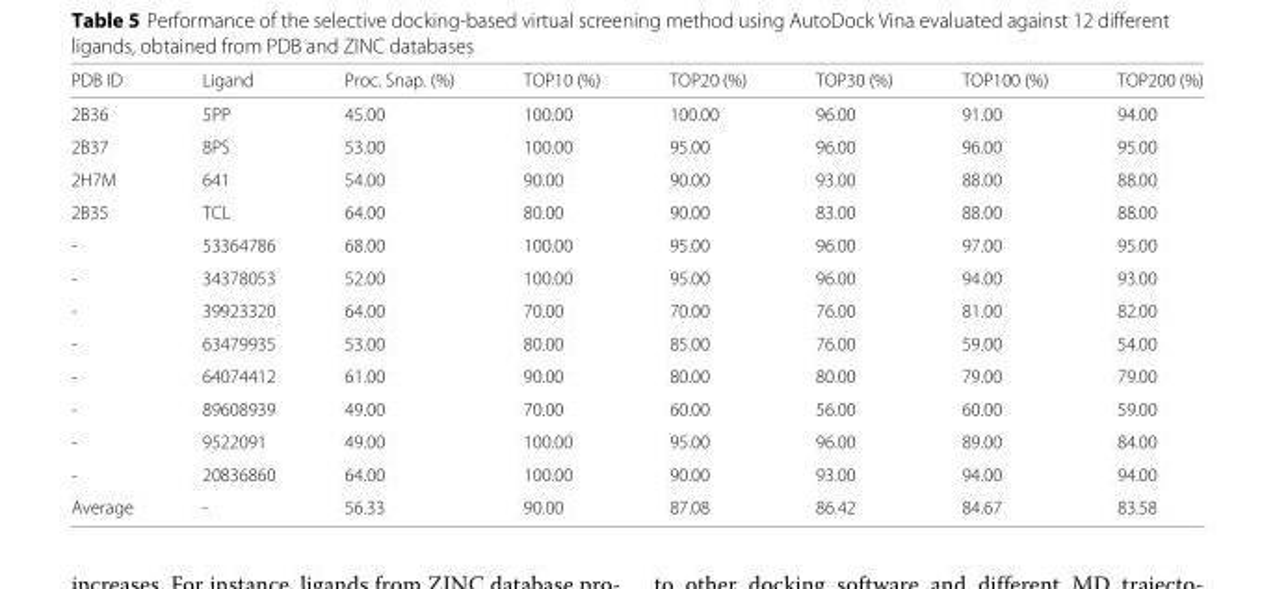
<table><thead><tr><td>PDB ID</td><td>Ligand</td><td>Proc. Snap. (%)</td><td>TOP10 (%)</td><td>TOP20 (%)</td><td>TOP30 (%)</td><td>TOP100 (%)</td><td>TOP200 (%)</td></tr></thead><tbody><tr><td>2B36</td><td>5PP</td><td>45.00</td><td>100.00</td><td>100.00</td><td>96.00</td><td>91.00</td><td>94.00</td></tr><tr><td>2B37</td><td>8PS</td><td>53.00</td><td>100.00</td><td>95.00</td><td>96.00</td><td>96.00</td><td>95.00</td></tr><tr><td>2H7M</td><td>641</td><td>54.00</td><td>90.00</td><td>90.00</td><td>93.00</td><td>88.00</td><td>88.00</td></tr><tr><td>2B35</td><td>TCL</td><td>64.00</td><td>80.00</td><td>90.00</td><td>83.00</td><td>88.00</td><td>88.00</td></tr><tr><td>-</td><td>53364786</td><td>68.00</td><td>100.00</td><td>95.00</td><td>96.00</td><td>97.00</td><td>95.00</td></tr><tr><td>-</td><td>34378053</td><td>52.00</td><td>100.00</td><td>95.00</td><td>96.00</td><td>94.00</td><td>93.00</td></tr><tr><td>-</td><td>39923320</td><td>64.00</td><td>70.00</td><td>70.00</td><td>76.00</td><td>81.00</td><td>82.00</td></tr><tr><td>-</td><td>63479935</td><td>53.00</td><td>80.00</td><td>85.00</td><td>76.00</td><td>59.00</td><td>54.00</td></tr><tr><td>-</td><td>64074412</td><td>61.00</td><td>90.00</td><td>80.00</td><td>80.00</td><td>79.00</td><td>79.00</td></tr><tr><td>-</td><td>89608939</td><td>49.00</td><td>70.00</td><td>60.00</td><td>56.00</td><td>60.00</td><td>59.00</td></tr><tr><td>-</td><td>9522091</td><td>49.00</td><td>100.00</td><td>95.00</td><td>96.00</td><td>89.00</td><td>84.00</td></tr><tr><td>-</td><td>20836860</td><td>64.00</td><td>100.00</td><td>90.00</td><td>93.00</td><td>94.00</td><td>94.00</td></tr><tr><td>Average</td><td>-</td><td>56.33</td><td>90.00</td><td>87.08</td><td>86.42</td><td>84.67</td><td>83.58</td></tr></tbody></table>